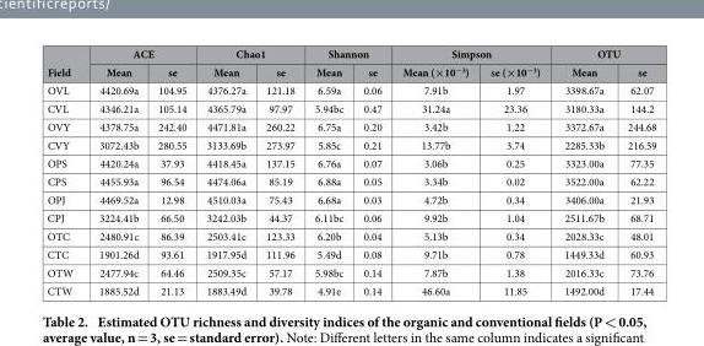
<table><thead><tr><td rowspan="2">Field</td><td colspan="2">ACE</td><td colspan="2">Chao1</td><td colspan="2">Shannon</td><td colspan="2">Simpson</td><td colspan="2">OTU</td></tr><tr><td>Mean</td><td>se</td><td>Mean</td><td>se</td><td>Mean</td><td>se</td><td>Mean (×10<sup>−3</sup>)</td><td>se (×10<sup>−3</sup>)</td><td>Mean</td><td>se</td></tr></thead><tbody><tr><td>OVL</td><td>4420.69a</td><td>104.95</td><td>4376.27a</td><td>121.18</td><td>6.59a</td><td>0.06</td><td>7.91b</td><td>1.97</td><td>3398.67a</td><td>62.07</td></tr><tr><td>CVL</td><td>4346.21a</td><td>105.14</td><td>4365.79a</td><td>97.97</td><td>5.94bc</td><td>0.47</td><td>31.24a</td><td>23.36</td><td>3180.33a</td><td>144.2</td></tr><tr><td>OVY</td><td>4378.75a</td><td>242.40</td><td>4471.81a</td><td>260.22</td><td>6.75a</td><td>0.20</td><td>3.42b</td><td>1.22</td><td>3372.67a</td><td>244.68</td></tr><tr><td>CVY</td><td>3072.43b</td><td>280.55</td><td>3133.69b</td><td>273.97</td><td>5.85c</td><td>0.21</td><td>13.77b</td><td>3.74</td><td>2285.33b</td><td>216.59</td></tr><tr><td>OPS</td><td>4420.24a</td><td>37.93</td><td>4418.45a</td><td>137.15</td><td>6.76a</td><td>0.07</td><td>3.06b</td><td>0.25</td><td>3323.00a</td><td>77.35</td></tr><tr><td>CPS</td><td>4455.93a</td><td>96.54</td><td>4474.06a</td><td>85.19</td><td>6.88a</td><td>0.05</td><td>3.34b</td><td>0.02</td><td>3522.00a</td><td>62.22</td></tr><tr><td>OPJ</td><td>4469.52a</td><td>12.98</td><td>4510.03a</td><td>75.43</td><td>6.68a</td><td>0.03</td><td>4.72b</td><td>0.34</td><td>3406.00a</td><td>21.93</td></tr><tr><td>CPJ</td><td>3224.41b</td><td>66.50</td><td>3242.03b</td><td>44.37</td><td>6.11bc</td><td>0.06</td><td>9.92b</td><td>1.04</td><td>2511.67b</td><td>68.71</td></tr><tr><td>OTC</td><td>2480.91c</td><td>86.39</td><td>2503.41c</td><td>123.33</td><td>6.20b</td><td>0.04</td><td>5.13b</td><td>0.34</td><td>2028.33c</td><td>48.01</td></tr><tr><td>CTC</td><td>1901.26d</td><td>93.61</td><td>1917.95d</td><td>111.96</td><td>5.49d</td><td>0.08</td><td>9.71b</td><td>0.78</td><td>1449.33d</td><td>60.93</td></tr><tr><td>OTW</td><td>2477.94c</td><td>64.46</td><td>2509.35c</td><td>57.17</td><td>5.98bc</td><td>0.14</td><td>7.87b</td><td>1.38</td><td>2016.33c</td><td>73.76</td></tr><tr><td>CTW</td><td>1885.52d</td><td>21.13</td><td>1883.49d</td><td>39.78</td><td>4.91e</td><td>0.14</td><td>46.60a</td><td>11.85</td><td>1492.00d</td><td>17.44</td></tr></tbody></table>